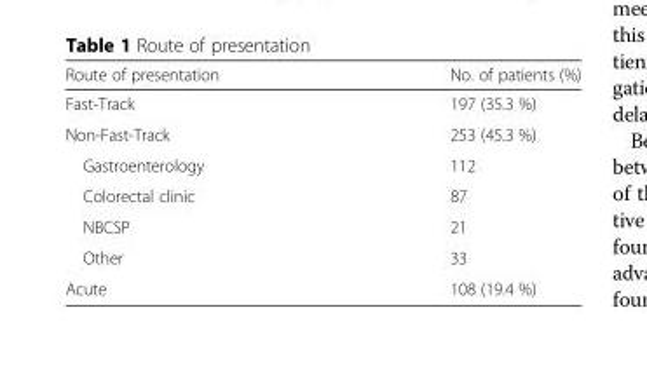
<table><thead><tr><td>Route of presentation</td><td>No. of patients (%)</td></tr></thead><tbody><tr><td>Fast-Track</td><td>197 (35.3 %)</td></tr><tr><td>Non-Fast-Track</td><td>253 (45.3 %)</td></tr><tr><td>Gastroenterology</td><td>112</td></tr><tr><td>Colorectal clinic</td><td>87</td></tr><tr><td>NBCSP</td><td>21</td></tr><tr><td>Other</td><td>33</td></tr><tr><td>Acute</td><td>108 (19.4 %)</td></tr></tbody></table>